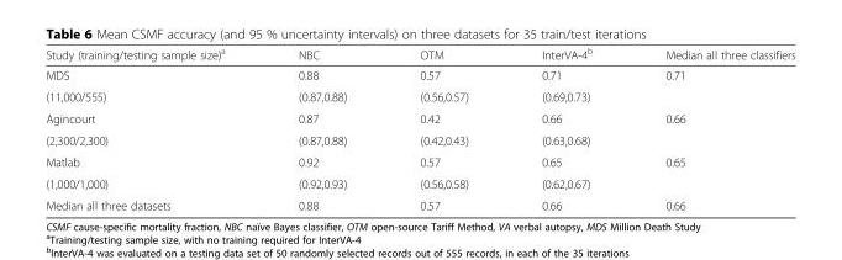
<table><thead><tr><td>Study (training/testing sample size)<sup>a</sup></td><td>NBC</td><td>OTM</td><td>InterVA-4<sup>b</sup></td><td>Median all three classifiers</td></tr></thead><tbody><tr><td>MDS</td><td>0.88</td><td>0.57</td><td>0.71</td><td rowspan="2">0.71</td></tr><tr><td>(11,000/555)</td><td>(0.87,0.88)</td><td>(0.56,0.57)</td><td>(0.69,0.73)</td></tr><tr><td>Agincourt</td><td>0.87</td><td>0.42</td><td>0.66</td><td rowspan="2">0.66</td></tr><tr><td>(2,300/2,300)</td><td>(0.87,0.88)</td><td>(0.42,0.43)</td><td>(0.63,0.68)</td></tr><tr><td>Matlab</td><td>0.92</td><td>0.57</td><td>0.65</td><td rowspan="2">0.65</td></tr><tr><td>(1,000/1,000)</td><td>(0.92,0.93)</td><td>(0.56,0.58)</td><td>(0.62,0.67)</td></tr><tr><td>Median all three datasets</td><td>0.88</td><td>0.57</td><td>0.66</td><td>0.66</td></tr></tbody></table>